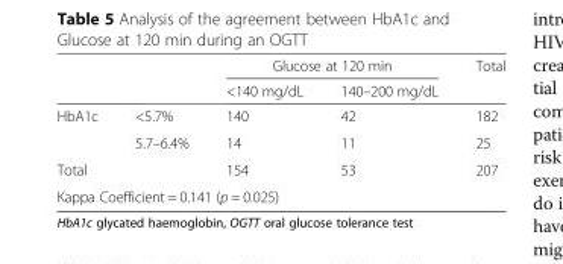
<table><thead><tr><td rowspan="2"></td><td rowspan="2"></td><td colspan="2">Glucose at 120 min</td><td rowspan="2">Total</td></tr><tr><td>&lt;140 mg/dL</td><td>140–200 mg/dL</td></tr></thead><tbody><tr><td rowspan="2">HbA1c</td><td>&lt;5.7%</td><td>140</td><td>42</td><td>182</td></tr><tr><td>5.7–6.4%</td><td>14</td><td>11</td><td>25</td></tr><tr><td>Total</td><td></td><td>154</td><td>53</td><td>207</td></tr><tr><td colspan="5">Kappa Coefficient = 0.141 (p = 0.025)</td></tr></tbody></table>